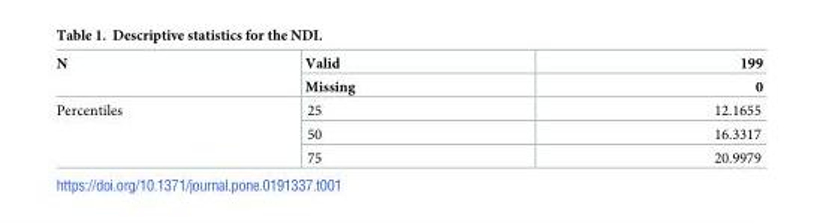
<table><thead><tr><td rowspan="2">N</td><td rowspan="2">Valid Missing</td><td rowspan="2">199 0</td></tr><tr></tr></thead><tbody><tr><td rowspan="3">Percentiles</td><td>25</td><td>12.1655</td></tr><tr><td>50</td><td>16.3317</td></tr><tr><td>75</td><td>20.9979</td></tr></tbody></table>